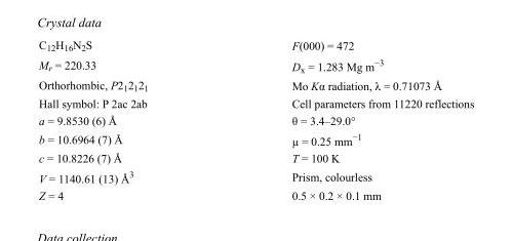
<table><tbody><tr><td>C<sub>12</sub>H<sub>16</sub>N<sub>2</sub>S</td><td>F(000) = 472</td></tr><tr><td>M<sub>r</sub> = 220.33</td><td>D<sub>x</sub> = 1.283 Mg m<sup>−3</sup></td></tr><tr><td>Orthorhombic, P2<sub>1</sub>2<sub>1</sub>2<sub>1</sub></td><td>Mo Kα radiation, λ = 0.71073 Å</td></tr><tr><td>Hall symbol: P 2ac 2ab</td><td>Cell parameters from 11220 reflections</td></tr><tr><td>a = 9.8530 (6) Å</td><td>θ = 3.4–29.0°</td></tr><tr><td>b = 10.6964 (7) Å</td><td>µ = 0.25 mm<sup>−1</sup></td></tr><tr><td>c = 10.8226 (7) Å</td><td>T = 100 K</td></tr><tr><td>V = 1140.61 (13) Å<sup>3</sup></td><td>Prism, colourless</td></tr><tr><td>Z = 4</td><td>0.5 × 0.2 × 0.1 mm</td></tr></tbody></table>